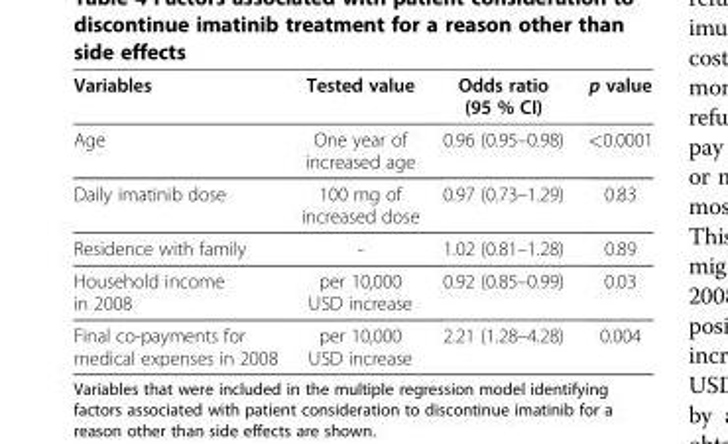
<table><thead><tr><td>Variables</td><td>Tested value</td><td>Odds ratio (95 % CI)</td><td>p value</td></tr></thead><tbody><tr><td>Age</td><td>One year of increased age</td><td>0.96 (0.95–0.98)</td><td>&lt;0.0001</td></tr><tr><td>Daily imatinib dose</td><td>100 mg of increased dose</td><td>0.97 (0.73–1.29)</td><td>0.83</td></tr><tr><td>Residence with family</td><td>-</td><td>1.02 (0.81–1.28)</td><td>0.89</td></tr><tr><td>Household income in 2008</td><td>per 10,000 USD increase</td><td>0.92 (0.85–0.99)</td><td>0.03</td></tr><tr><td>Final co-payments for medical expenses in 2008</td><td>per 10,000 USD increase</td><td>2.21 (1.28–4.28)</td><td>0.004</td></tr></tbody></table>